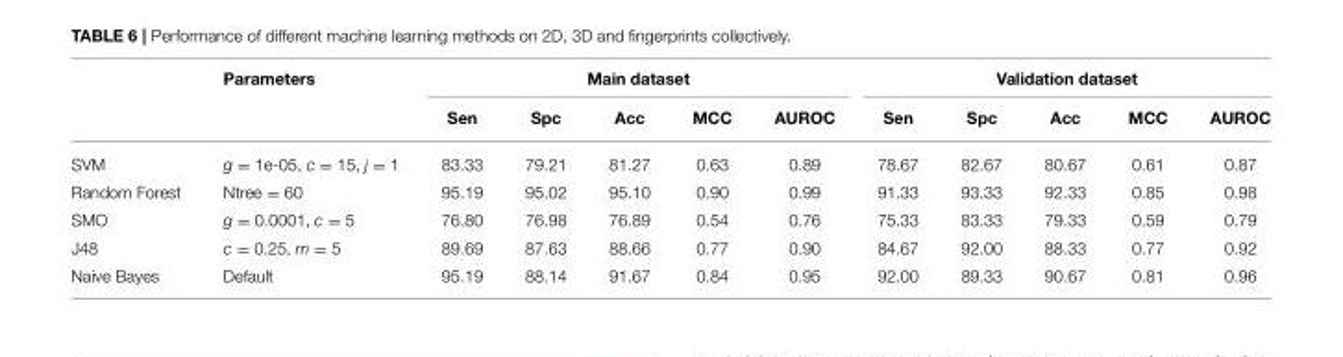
<table><thead><tr><td rowspan="2"></td><td rowspan="2">Parameters</td><td colspan="5">Main dataset</td><td colspan="5">Validation dataset</td></tr><tr><td>Sen</td><td>Spc</td><td>Acc</td><td>MCC</td><td>AUROC</td><td>Sen</td><td>Spc</td><td>Acc</td><td>MCC</td><td>AUROC</td></tr></thead><tbody><tr><td>SVM</td><td>g = 1e-05, c = 15, j = 1</td><td>83.33</td><td>79.21</td><td>81.27</td><td>0.63</td><td>0.89</td><td>78.67</td><td>82.67</td><td>80.67</td><td>0.61</td><td>0.87</td></tr><tr><td>Random Forest</td><td>Ntree = 60</td><td>95.19</td><td>95.02</td><td>95.10</td><td>0.90</td><td>0.99</td><td>91.33</td><td>93.33</td><td>92.33</td><td>0.85</td><td>0.98</td></tr><tr><td>SMO</td><td>g = 0.0001, c = 5</td><td>76.80</td><td>76.98</td><td>76.89</td><td>0.54</td><td>0.76</td><td>75.33</td><td>83.33</td><td>79.33</td><td>0.59</td><td>0.79</td></tr><tr><td>J48</td><td>c = 0.25, m = 5</td><td>89.69</td><td>87.63</td><td>88.66</td><td>0.77</td><td>0.90</td><td>84.67</td><td>92.00</td><td>88.33</td><td>0.77</td><td>0.92</td></tr><tr><td>Naive Bayes</td><td>Default</td><td>95.19</td><td>88.14</td><td>91.67</td><td>0.84</td><td>0.95</td><td>92.00</td><td>89.33</td><td>90.67</td><td>0.81</td><td>0.96</td></tr></tbody></table>